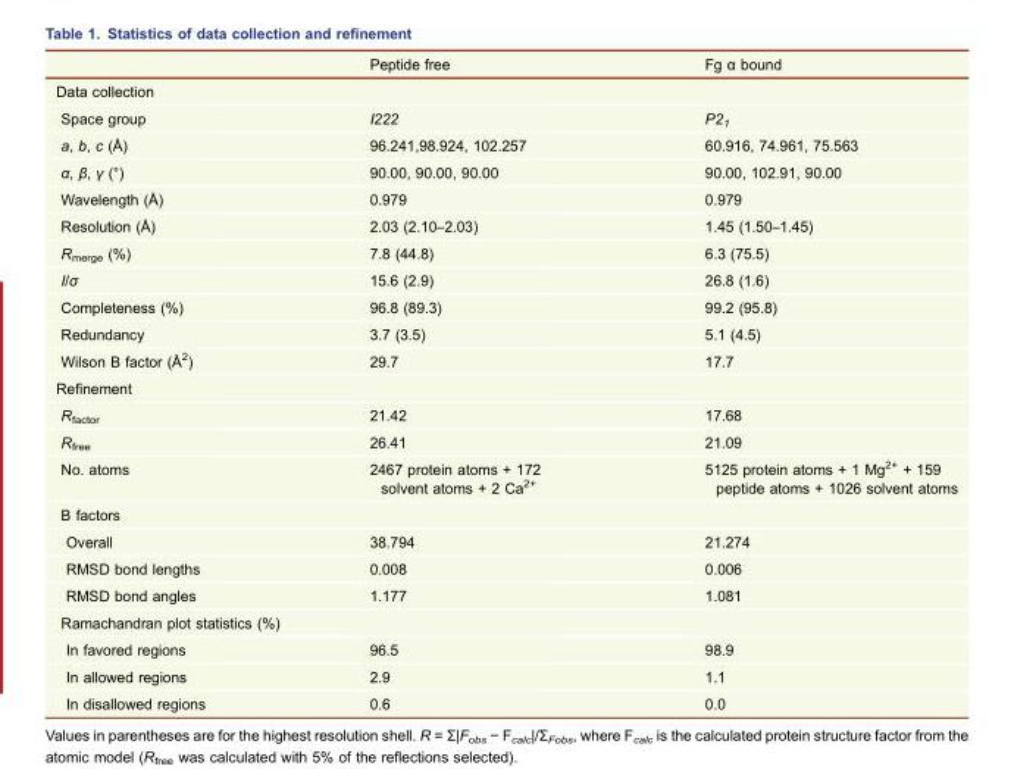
<table><thead><tr><td></td><td>Peptide free</td><td>Fg α bound</td></tr></thead><tbody><tr><td colspan="3">Data collection</td></tr><tr><td>Space group</td><td>I222</td><td>P2<sub>1</sub></td></tr><tr><td>a, b, c (Å)</td><td>96.241,98.924, 102.257</td><td>60.916, 74.961, 75.563</td></tr><tr><td>α, β, γ (°)</td><td>90.00, 90.00, 90.00</td><td>90.00, 102.91, 90.00</td></tr><tr><td>Wavelength (Å)</td><td>0.979</td><td>0.979</td></tr><tr><td>Resolution (Å)</td><td>2.03 (2.10–2.03)</td><td>1.45 (1.50–1.45)</td></tr><tr><td>R<sub>merge</sub> (%)</td><td>7.8 (44.8)</td><td>6.3 (75.5)</td></tr><tr><td>I/σ</td><td>15.6 (2.9)</td><td>26.8 (1.6)</td></tr><tr><td>Completeness (%)</td><td>96.8 (89.3)</td><td>99.2 (95.8)</td></tr><tr><td>Redundancy</td><td>3.7 (3.5)</td><td>5.1 (4.5)</td></tr><tr><td>Wilson B factor (Å<sup>2</sup>)</td><td>29.7</td><td>17.7</td></tr><tr><td colspan="3">Refinement</td></tr><tr><td>R<sub>factor</sub></td><td>21.42</td><td>17.68</td></tr><tr><td>R<sub>free</sub></td><td>26.41</td><td>21.09</td></tr><tr><td>No. atoms</td><td>2467 protein atoms + 172 solvent atoms + 2 Ca<sup>2+</sup></td><td>5125 protein atoms + 1 Mg<sup>2+</sup> + 159 peptide atoms + 1026 solvent atoms</td></tr><tr><td colspan="3">B factors</td></tr><tr><td>Overall</td><td>38.794</td><td>21.274</td></tr><tr><td>RMSD bond lengths</td><td>0.008</td><td>0.006</td></tr><tr><td>RMSD bond angles</td><td>1.177</td><td>1.081</td></tr><tr><td colspan="3">Ramachandran plot statistics (%)</td></tr><tr><td>In favored regions</td><td>96.5</td><td>98.9</td></tr><tr><td>In allowed regions</td><td>2.9</td><td>1.1</td></tr><tr><td>In disallowed regions</td><td>0.6</td><td>0.0</td></tr></tbody></table>